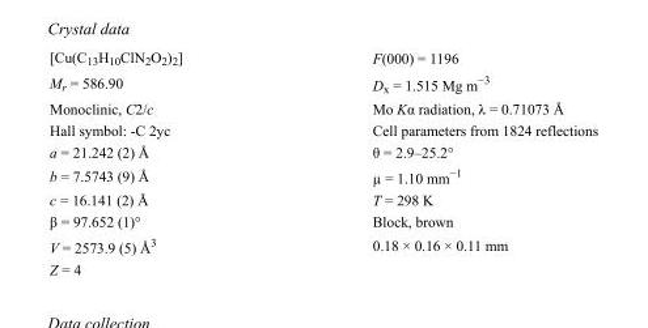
<table><tbody><tr><td>[Cu(C<sub>13</sub>H<sub>10</sub>ClN<sub>2</sub>O<sub>2</sub>)<sub>2</sub>]</td><td>F(000) = 1196</td></tr><tr><td>M<sub>r</sub> = 586.90</td><td>D<sub>x</sub> = 1.515 Mg m<sup>−3</sup></td></tr><tr><td>Monoclinic, C2/c</td><td>Mo Kα radiation, λ = 0.71073 Å</td></tr><tr><td>Hall symbol: -C 2yc</td><td>Cell parameters from 1824 reflections</td></tr><tr><td>a = 21.242 (2) Å</td><td>θ = 2.9–25.2°</td></tr><tr><td>b = 7.5743 (9) Å</td><td>µ = 1.10 mm<sup>−1</sup></td></tr><tr><td>c = 16.141 (2) Å</td><td>T = 298 K</td></tr><tr><td>β = 97.652 (1)°</td><td>Block, brown</td></tr><tr><td>V = 2573.9 (5) Å<sup>3</sup></td><td>0.18 × 0.16 × 0.11 mm</td></tr><tr><td>Z = 4</td><td></td></tr></tbody></table>